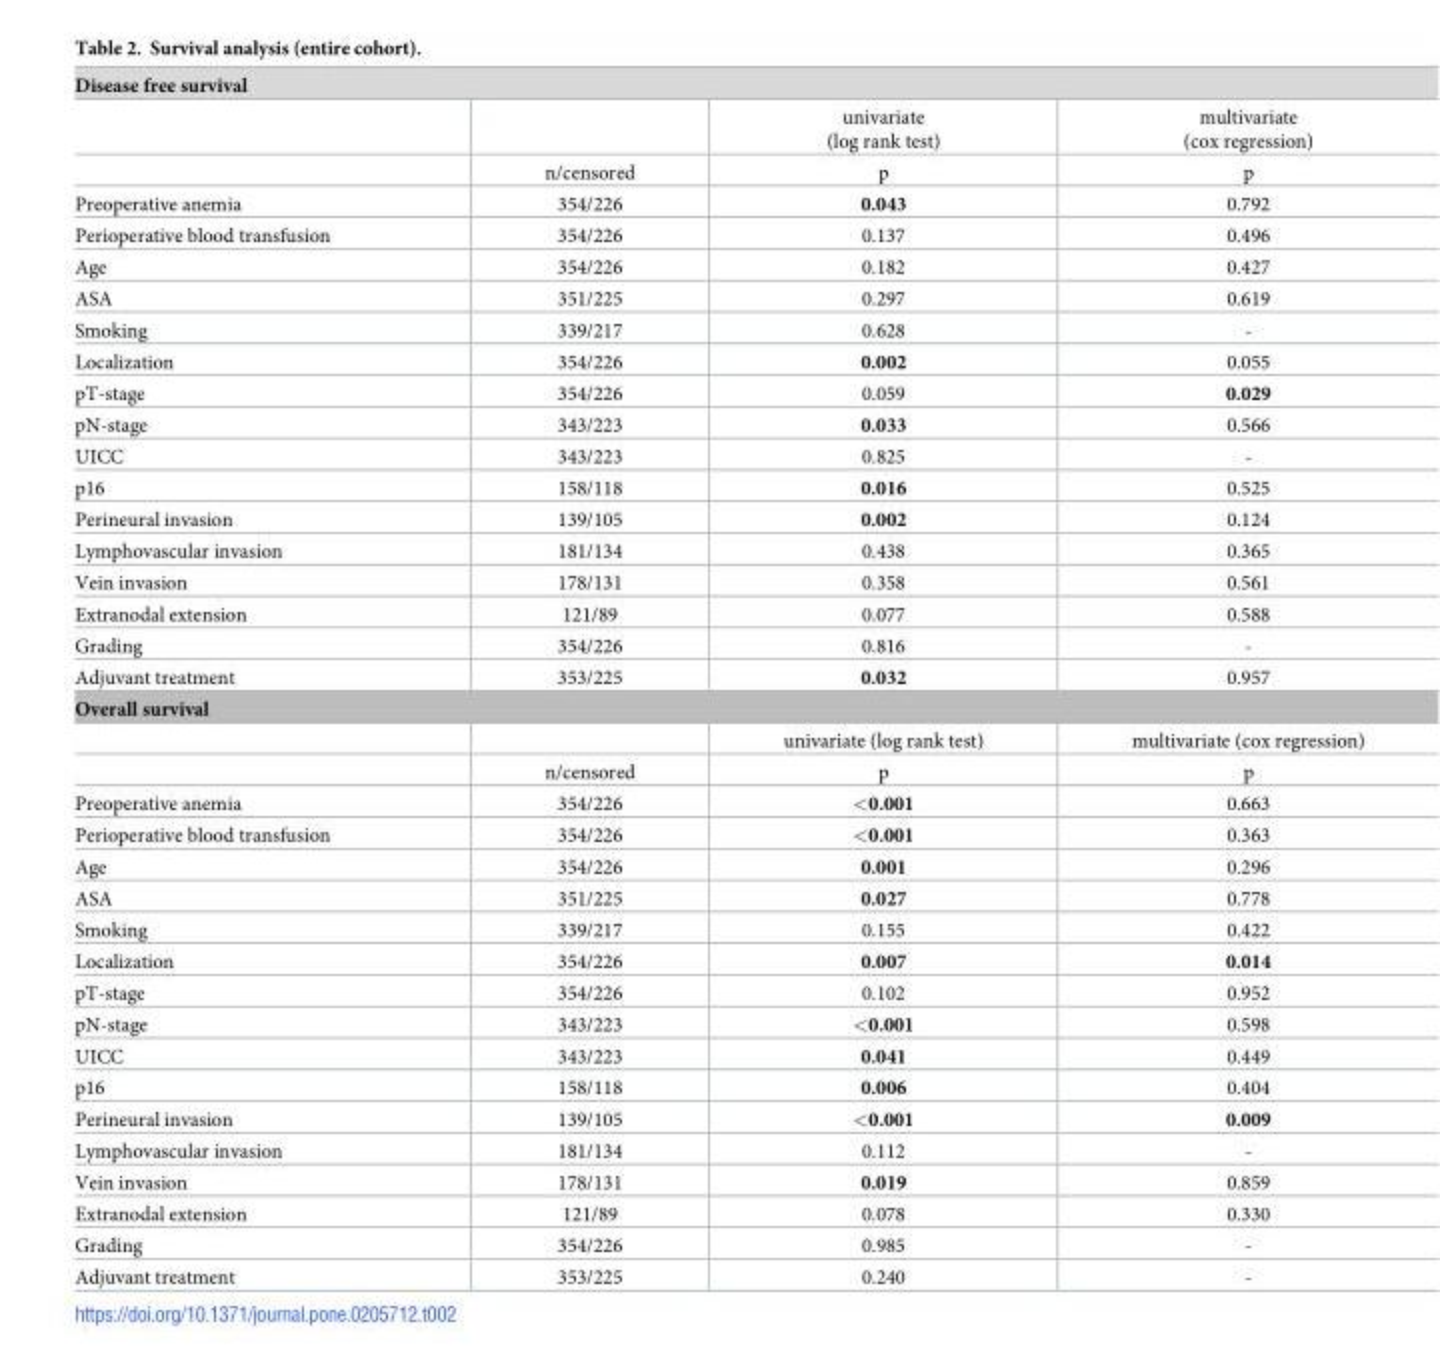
<table><tbody><tr><td colspan="4">Disease free survival</td></tr><tr><td></td><td></td><td>univariate (log rank test)</td><td>multivariate (cox regression)</td></tr><tr><td></td><td>n/censored</td><td>p</td><td>p</td></tr><tr><td>Preoperative anemia</td><td>354/226</td><td>0.043</td><td>0.792</td></tr><tr><td>Perioperative blood transfusion</td><td>354/226</td><td>0.137</td><td>0.496</td></tr><tr><td>Age</td><td>354/226</td><td>0.182</td><td>0.427</td></tr><tr><td>ASA</td><td>351/225</td><td>0.297</td><td>0.619</td></tr><tr><td>Smoking</td><td>339/217</td><td>0.628</td><td>-</td></tr><tr><td>Localization</td><td>354/226</td><td>0.002</td><td>0.055</td></tr><tr><td>pT-stage</td><td>354/226</td><td>0.059</td><td>0.029</td></tr><tr><td>pN-stage</td><td>343/223</td><td>0.033</td><td>0.566</td></tr><tr><td>UICC</td><td>343/223</td><td>0.825</td><td>-</td></tr><tr><td>p16</td><td>158/118</td><td>0.016</td><td>0.525</td></tr><tr><td>Perineural invasion</td><td>139/105</td><td>0.002</td><td>0.124</td></tr><tr><td>Lymphovascular invasion</td><td>181/134</td><td>0.438</td><td>0.365</td></tr><tr><td>Vein invasion</td><td>178/131</td><td>0.358</td><td>0.561</td></tr><tr><td>Extranodal extension</td><td>121/89</td><td>0.077</td><td>0.588</td></tr><tr><td>Grading</td><td>354/226</td><td>0.816</td><td>-</td></tr><tr><td>Adjuvant treatment</td><td>353/225</td><td>0.032</td><td>0.957</td></tr><tr><td colspan="4">Overall survival</td></tr><tr><td></td><td></td><td>univariate (log rank test)</td><td>multivariate (cox regression)</td></tr><tr><td></td><td>n/censored</td><td>p</td><td>p</td></tr><tr><td>Preoperative anemia</td><td>354/226</td><td>&lt;0.001</td><td>0.663</td></tr><tr><td>Perioperative blood transfusion</td><td>354/226</td><td>&lt;0.001</td><td>0.363</td></tr><tr><td>Age</td><td>354/226</td><td>0.001</td><td>0.296</td></tr><tr><td>ASA</td><td>351/225</td><td>0.027</td><td>0.778</td></tr><tr><td>Smoking</td><td>339/217</td><td>0.155</td><td>0.422</td></tr><tr><td>Localization</td><td>354/226</td><td>0.007</td><td>0.014</td></tr><tr><td>pT-stage</td><td>354/226</td><td>0.102</td><td>0.952</td></tr><tr><td>pN-stage</td><td>343/223</td><td>&lt;0.001</td><td>0.598</td></tr><tr><td>UICC</td><td>343/223</td><td>0.041</td><td>0.449</td></tr><tr><td>p16</td><td>158/118</td><td>0.006</td><td>0.404</td></tr><tr><td>Perineural invasion</td><td>139/105</td><td>&lt;0.001</td><td>0.009</td></tr><tr><td>Lymphovascular invasion</td><td>181/134</td><td>0.112</td><td>-</td></tr><tr><td>Vein invasion</td><td>178/131</td><td>0.019</td><td>0.859</td></tr><tr><td>Extranodal extension</td><td>121/89</td><td>0.078</td><td>0.330</td></tr><tr><td>Grading</td><td>354/226</td><td>0.985</td><td>-</td></tr><tr><td>Adjuvant treatment</td><td>353/225</td><td>0.240</td><td>-</td></tr></tbody></table>